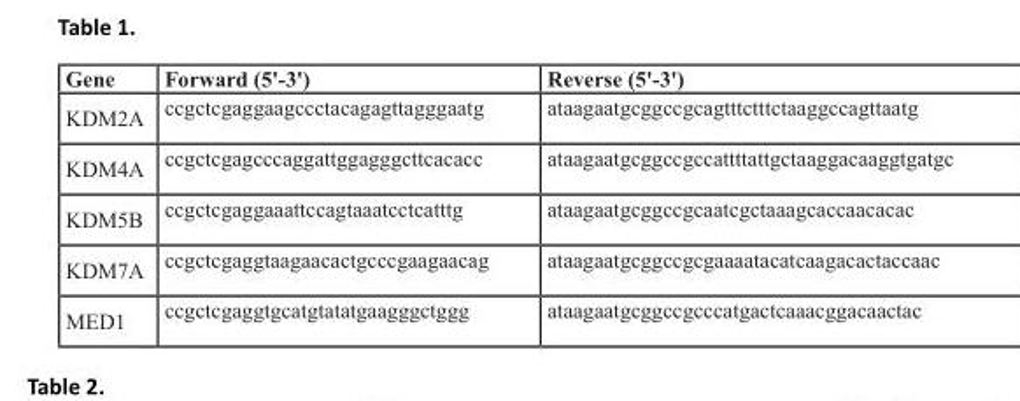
<table><thead><tr><td>Gene</td><td>Forward (5&#x27;-3&#x27;)</td><td>Reverse (5&#x27;-3&#x27;)</td></tr></thead><tbody><tr><td>KDM2A</td><td>ccgctcgaggaagccctacagagttagggaatg</td><td>ataagaatgcggccgcagtttctttctaaggccagttaatg</td></tr><tr><td>KDM4A</td><td>ccgctcgagcccaggattggagggcttcacacc</td><td>ataagaatgcggccgccattttattgctaaggacaaggtgatgc</td></tr><tr><td>KDM5B</td><td>ccgctcgaggaaattccagtaaatcctcatttg</td><td>ataagaatgcggccgcaatcgctaaagcaccaacacac</td></tr><tr><td>KDM7A</td><td>ccgctcgaggtaagaacactgcccgaagaacag</td><td>ataagaatgcggccgcgaaaatacatcaagacactaccaac</td></tr><tr><td>MED1</td><td>ccgctcgaggtgcatgtatatgaagggctggg</td><td>ataagaatgcggccgcccatgactcaaacggacaactac</td></tr></tbody></table>